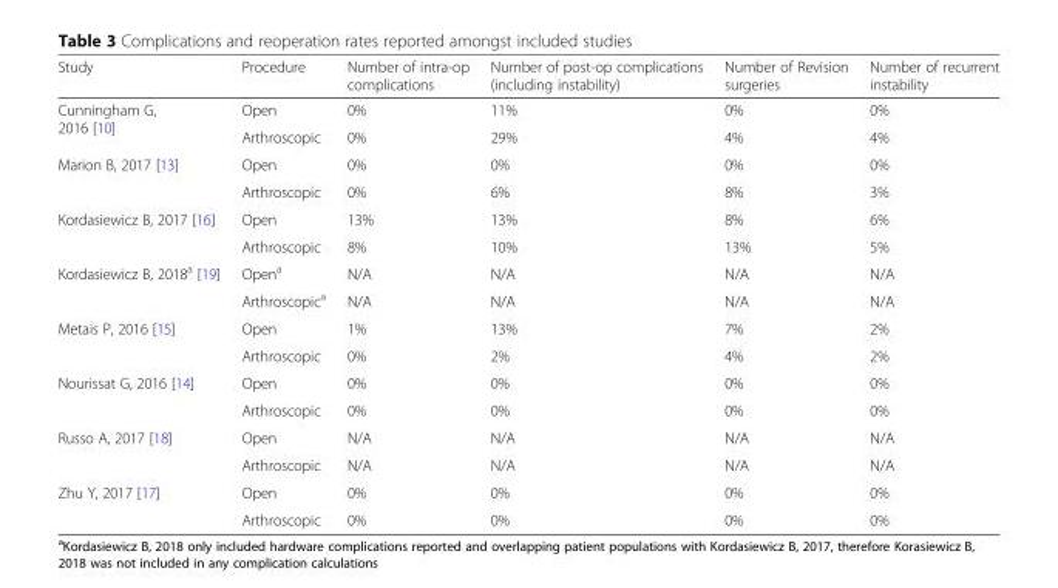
<table><thead><tr><td>Study</td><td>Procedure</td><td>Number of intra-op complications</td><td>Number of post-op complications (including instability)</td><td>Number of Revision surgeries</td><td>Number of recurrent instability</td></tr></thead><tbody><tr><td rowspan="2">Cunningham G, 2016 [10]</td><td>Open</td><td>0%</td><td>11%</td><td>0%</td><td>0%</td></tr><tr><td>Arthroscopic</td><td>0%</td><td>29%</td><td>4%</td><td>4%</td></tr><tr><td rowspan="2">Marion B, 2017 [13]</td><td>Open</td><td>0%</td><td>0%</td><td>0%</td><td>0%</td></tr><tr><td>Arthroscopic</td><td>0%</td><td>6%</td><td>8%</td><td>3%</td></tr><tr><td rowspan="2">Kordasiewicz B, 2017 [16]</td><td>Open</td><td>13%</td><td>13%</td><td>8%</td><td>6%</td></tr><tr><td>Arthroscopic</td><td>8%</td><td>10%</td><td>13%</td><td>5%</td></tr><tr><td rowspan="2">Kordasiewicz B, 2018<sup>a</sup> [19]</td><td>Open<sup>a</sup></td><td>N/A</td><td>N/A</td><td>N/A</td><td>N/A</td></tr><tr><td>Arthroscopic<sup>a</sup></td><td>N/A</td><td>N/A</td><td>N/A</td><td>N/A</td></tr><tr><td rowspan="2">Metais P, 2016 [15]</td><td>Open</td><td>1%</td><td>13%</td><td>7%</td><td>2%</td></tr><tr><td>Arthroscopic</td><td>0%</td><td>2%</td><td>4%</td><td>2%</td></tr><tr><td rowspan="2">Nourissat G, 2016 [14]</td><td>Open</td><td>0%</td><td>0%</td><td>0%</td><td>0%</td></tr><tr><td>Arthroscopic</td><td>0%</td><td>0%</td><td>0%</td><td>0%</td></tr><tr><td rowspan="2">Russo A, 2017 [18]</td><td>Open</td><td>N/A</td><td>N/A</td><td>N/A</td><td>N/A</td></tr><tr><td>Arthroscopic</td><td>N/A</td><td>N/A</td><td>N/A</td><td>N/A</td></tr><tr><td rowspan="2">Zhu Y, 2017 [17]</td><td>Open</td><td>0%</td><td>0%</td><td>0%</td><td>0%</td></tr><tr><td>Arthroscopic</td><td>0%</td><td>0%</td><td>0%</td><td>0%</td></tr></tbody></table>